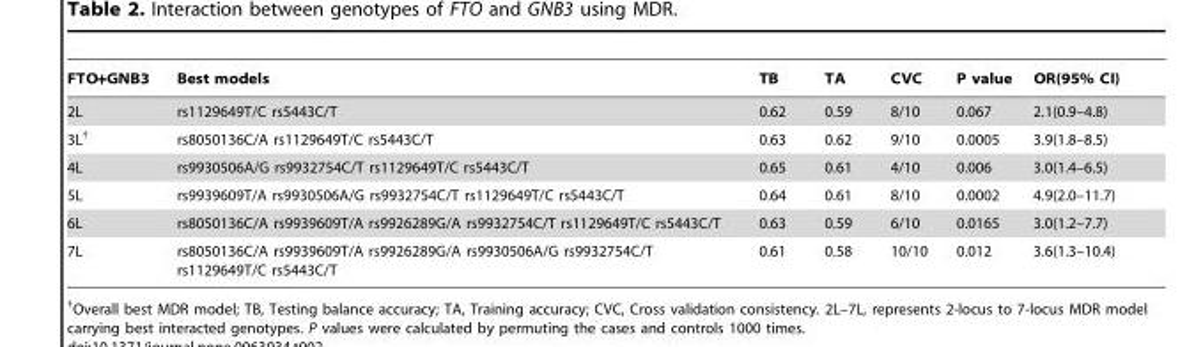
<table><thead><tr><td>FTO+GNB3</td><td>Best models</td><td>TB</td><td>TA</td><td>CVC</td><td>P value</td><td>OR(95% CI)</td></tr></thead><tbody><tr><td>2L</td><td>rs1129649T/C rs5443C/T</td><td>0.62</td><td>0.59</td><td>8/10</td><td>0.067</td><td>2.1(0.9–4.8)</td></tr><tr><td>3L†</td><td>rs8050136C/A rs1129649T/C rs5443C/T</td><td>0.63</td><td>0.62</td><td>9/10</td><td>0.0005</td><td>3.9(1.8–8.5)</td></tr><tr><td>4L</td><td>rs9930506A/G rs9932754C/T rs1129649T/C rs5443C/T</td><td>0.65</td><td>0.61</td><td>4/10</td><td>0.006</td><td>3.0(1.4–6.5)</td></tr><tr><td>5L</td><td>rs9939609T/A rs9930506A/G rs9932754C/T rs1129649T/C rs5443C/T</td><td>0.64</td><td>0.61</td><td>8/10</td><td>0.0002</td><td>4.9(2.0–11.7)</td></tr><tr><td>6L</td><td>rs8050136C/A rs9939609T/A rs9926289G/A rs9932754C/T rs1129649T/C rs5443C/T</td><td>0.63</td><td>0.59</td><td>6/10</td><td>0.0165</td><td>3.0(1.2–7.7)</td></tr><tr><td>7L</td><td>rs8050136C/A rs9939609T/A rs9926289G/A rs9930506A/G rs9932754C/T rs1129649T/C rs5443C/T</td><td>0.61</td><td>0.58</td><td>10/10</td><td>0.012</td><td>3.6(1.3–10.4)</td></tr></tbody></table>